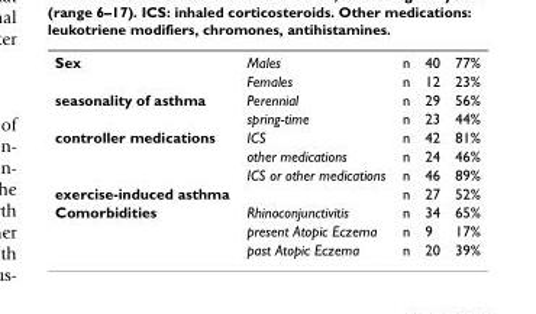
<table><tbody><tr><td rowspan="2">Sex</td><td>Males</td><td>n</td><td>40</td><td>77%</td></tr><tr><td>Females</td><td>n</td><td>12</td><td>23%</td></tr><tr><td rowspan="2">seasonality of asthma</td><td>Perennial</td><td>n</td><td>29</td><td>56%</td></tr><tr><td>spring-time</td><td>n</td><td>23</td><td>44%</td></tr><tr><td rowspan="3">controller medications</td><td>ICS</td><td>n</td><td>42</td><td>81%</td></tr><tr><td>other medications</td><td>n</td><td>24</td><td>46%</td></tr><tr><td>ICS or other medications</td><td>n</td><td>46</td><td>89%</td></tr><tr><td>exercise-induced asthma</td><td></td><td>n</td><td>27</td><td>52%</td></tr><tr><td rowspan="3">Comorbidities</td><td>Rhinoconjunctivitis</td><td>n</td><td>34</td><td>65%</td></tr><tr><td>present Atopic Eczema</td><td>n</td><td>9</td><td>17%</td></tr><tr><td>past Atopic Eczema</td><td>n</td><td>20</td><td>39%</td></tr></tbody></table>